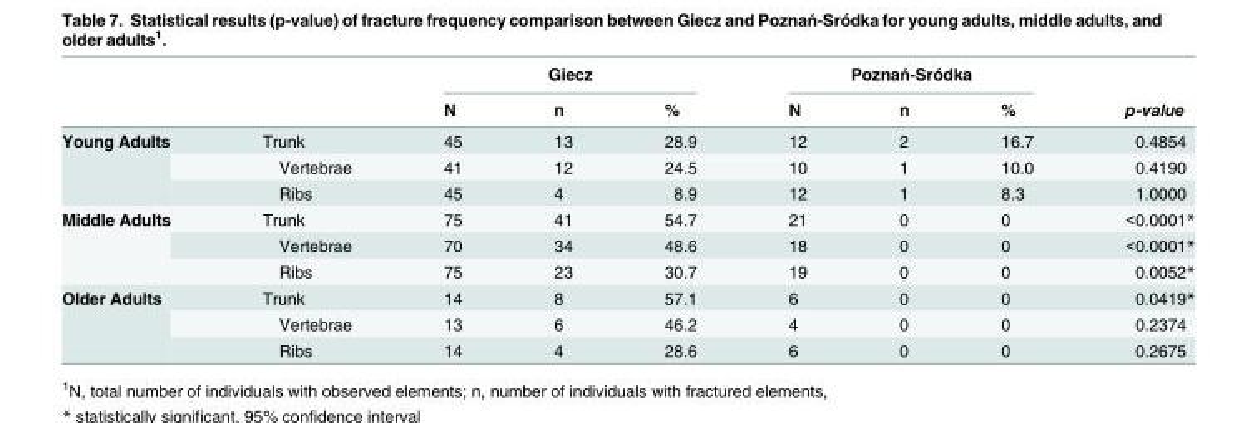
<table><thead><tr><td rowspan="2"></td><td rowspan="2"></td><td colspan="3">Giecz</td><td colspan="3">Poznań-Sródka</td><td rowspan="2">p-value</td></tr><tr><td>N</td><td>n</td><td>%</td><td>N</td><td>n</td><td>%</td></tr></thead><tbody><tr><td rowspan="3">Young Adults</td><td>Trunk</td><td>45</td><td>13</td><td>28.9</td><td>12</td><td>2</td><td>16.7</td><td>0.4854</td></tr><tr><td>Vertebrae</td><td>41</td><td>12</td><td>24.5</td><td>10</td><td>1</td><td>10.0</td><td>0.4190</td></tr><tr><td>Ribs</td><td>45</td><td>4</td><td>8.9</td><td>12</td><td>1</td><td>8.3</td><td>1.0000</td></tr><tr><td rowspan="3">Middle Adults</td><td>Trunk</td><td>75</td><td>41</td><td>54.7</td><td>21</td><td>0</td><td>0</td><td>&lt;0.0001*</td></tr><tr><td>Vertebrae</td><td>70</td><td>34</td><td>48.6</td><td>18</td><td>0</td><td>0</td><td>&lt;0.0001*</td></tr><tr><td>Ribs</td><td>75</td><td>23</td><td>30.7</td><td>19</td><td>0</td><td>0</td><td>0.0052*</td></tr><tr><td rowspan="3">Older Adults</td><td>Trunk</td><td>14</td><td>8</td><td>57.1</td><td>6</td><td>0</td><td>0</td><td>0.0419*</td></tr><tr><td>Vertebrae</td><td>13</td><td>6</td><td>46.2</td><td>4</td><td>0</td><td>0</td><td>0.2374</td></tr><tr><td>Ribs</td><td>14</td><td>4</td><td>28.6</td><td>6</td><td>0</td><td>0</td><td>0.2675</td></tr></tbody></table>